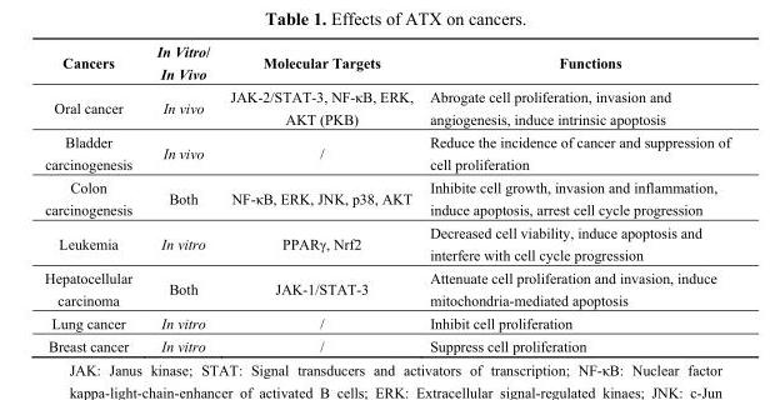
<table><thead><tr><td>Cancers</td><td>In Vitro/ In Vivo</td><td>Molecular Targets</td><td>Functions</td></tr></thead><tbody><tr><td>Oral cancer</td><td>In vivo</td><td>JAK-2/STAT-3, NF-κB, ERK, AKT (PKB)</td><td>Abrogate cell proliferation, invasion and angiogenesis, induce intrinsic apoptosis</td></tr><tr><td>Bladder carcinogenesis</td><td>In vivo</td><td>/</td><td>Reduce the incidence of cancer and suppression of cell proliferation</td></tr><tr><td>Colon carcinogenesis</td><td>Both</td><td>NF-κB, ERK, JNK, p38, AKT</td><td>Inhibite cell growth, invasion and inflammation, induce apoptosis, arrest cell cycle progression</td></tr><tr><td>Leukemia</td><td>In vitro</td><td>PPARγ, Nrf2</td><td>Decreased cell viability, induce apoptosis and interfere with cell cycle progression</td></tr><tr><td>Hepatocellular carcinoma</td><td>Both</td><td>JAK-1/STAT-3</td><td>Attenuate cell proliferation and invasion, induce mitochondria-mediated apoptosis</td></tr><tr><td>Lung cancer</td><td>In vitro</td><td>/</td><td>Inhibit cell proliferation</td></tr><tr><td>Breast cancer</td><td>In vitro</td><td>/</td><td>Suppress cell proliferation</td></tr></tbody></table>